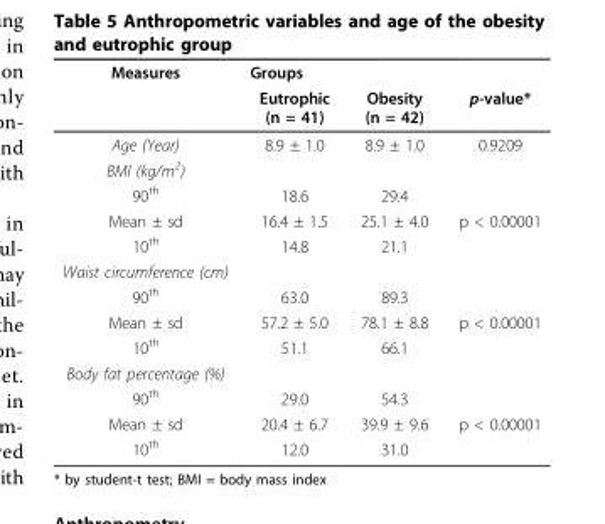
<table><thead><tr><td rowspan="2">Measures</td><td colspan="3">Groups</td></tr><tr><td>Eutrophic (n = 41)</td><td>Obesity (n = 42)</td><td>p-value*</td></tr></thead><tbody><tr><td>Age (Year)</td><td>8.9 ± 1.0</td><td>8.9 ± 1.0</td><td>0.9209</td></tr><tr><td colspan="4">BMI (kg/m<sup>2</sup>)</td></tr><tr><td>90<sup>th</sup></td><td>18.6</td><td>29.4</td><td></td></tr><tr><td>Mean ± sd</td><td>16.4 ± 1.5</td><td>25.1 ± 4.0</td><td>p &lt; 0.00001</td></tr><tr><td>10<sup>th</sup></td><td>14.8</td><td>21.1</td><td></td></tr><tr><td colspan="4">Waist circumference (cm)</td></tr><tr><td>90<sup>th</sup></td><td>63.0</td><td>89.3</td><td></td></tr><tr><td>Mean ± sd</td><td>57.2 ± 5.0</td><td>78.1 ± 8.8</td><td>p &lt; 0.00001</td></tr><tr><td>10<sup>th</sup></td><td>51.1</td><td>66.1</td><td></td></tr><tr><td colspan="4">Body fat percentage (%)</td></tr><tr><td>90<sup>th</sup></td><td>29.0</td><td>54.3</td><td></td></tr><tr><td>Mean ± sd</td><td>20.4 ± 6.7</td><td>39.9 ± 9.6</td><td>p &lt; 0.00001</td></tr><tr><td>10<sup>th</sup></td><td>12.0</td><td>31.0</td><td></td></tr></tbody></table>